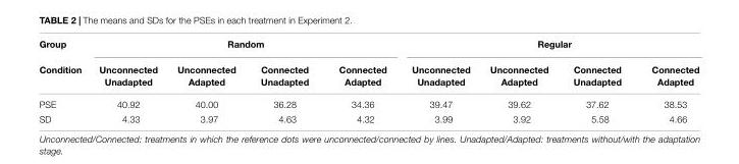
<table><thead><tr><td rowspan="2">Group Condition</td><td colspan="4">Random</td><td colspan="4">Regular</td></tr><tr><td>Unconnected Unadapted</td><td>Unconnected Adapted</td><td>Connected Unadapted</td><td>Connected Adapted</td><td>Unconnected Unadapted</td><td>Unconnected Adapted</td><td>Connected Unadapted</td><td>Connected Adapted</td></tr></thead><tbody><tr><td>PSE</td><td>40.92</td><td>40.00</td><td>36.28</td><td>34.36</td><td>39.47</td><td>39.62</td><td>37.62</td><td>38.53</td></tr><tr><td>SD</td><td>4.33</td><td>3.97</td><td>4.63</td><td>4.32</td><td>3.99</td><td>3.92</td><td>5.58</td><td>4.66</td></tr></tbody></table>